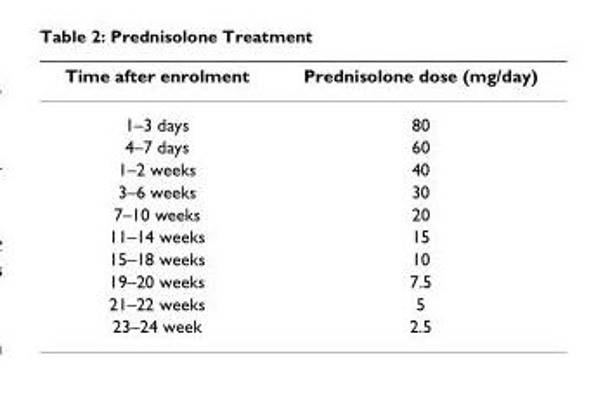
<table><thead><tr><td>Time after enrolment</td><td>Prednisolone dose (mg/day)</td></tr></thead><tbody><tr><td>1–3 days</td><td>80</td></tr><tr><td>4–7 days</td><td>60</td></tr><tr><td>1–2 weeks</td><td>40</td></tr><tr><td>3–6 weeks</td><td>30</td></tr><tr><td>7–10 weeks</td><td>20</td></tr><tr><td>11–14 weeks</td><td>15</td></tr><tr><td>15–18 weeks</td><td>10</td></tr><tr><td>19–20 weeks</td><td>7.5</td></tr><tr><td>21–22 weeks</td><td>5</td></tr><tr><td>23–24 week</td><td>2.5</td></tr></tbody></table>